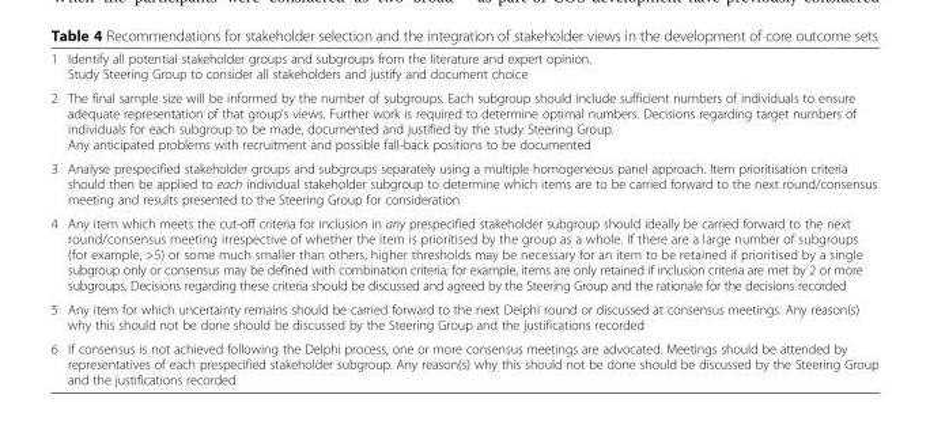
<table><tbody><tr><td>1</td><td>Identify all potential stakeholder groups and subgroups from the literature and expert opinion. Study Steering Group to consider all stakeholders and justify and document choice</td></tr><tr><td>2</td><td>The final sample size will be informed by the number of subgroups. Each subgroup should include sufficient numbers of individuals to ensure adequate representation of that group’s views. Further work is required to determine optimal numbers. Decisions regarding target numbers of individuals for each subgroup to be made, documented and justified by the study Steering Group. Any anticipated problems with recruitment and possible fall-back positions to be documented</td></tr><tr><td>3</td><td>Analyse prespecified stakeholder groups and subgroups separately using a multiple homogeneous panel approach. Item prioritisation criteria should then be applied to each individual stakeholder subgroup to determine which items are to be carried forward to the next round/consensus meeting and results presented to the Steering Group for consideration</td></tr><tr><td>4</td><td>Any item which meets the cut-off criteria for inclusion in any prespecified stakeholder subgroup should ideally be carried forward to the next round/consensus meeting irrespective of whether the item is prioritised by the group as a whole. If there are a large number of subgroups (for example, &gt;5) or some much smaller than others, higher thresholds may be necessary for an item to be retained if prioritised by a single subgroup only or consensus may be defined with combination criteria; for example, items are only retained if inclusion criteria are met by 2 or more subgroups. Decisions regarding these criteria should be discussed and agreed by the Steering Group and the rationale for the decisions recorded</td></tr><tr><td>5</td><td>Any item for which uncertainty remains should be carried forward to the next Delphi round or discussed at consensus meetings. Any reason(s) why this should not be done should be discussed by the Steering Group and the justifications recorded</td></tr><tr><td>6</td><td>If consensus is not achieved following the Delphi process, one or more consensus meetings are advocated. Meetings should be attended by representatives of each prespecified stakeholder subgroup. Any reason(s) why this should not be done should be discussed by the Steering Group and the justifications recorded</td></tr></tbody></table>